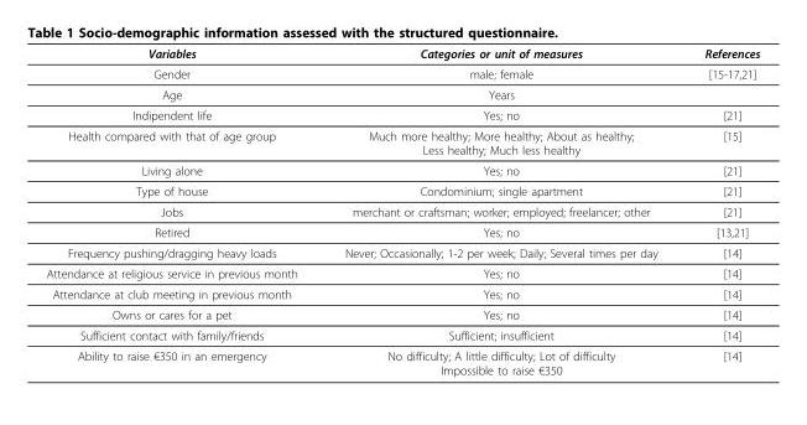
<table><thead><tr><td>Variables</td><td>Categories or unit of measures</td><td>References</td></tr></thead><tbody><tr><td>Gender</td><td>male; female</td><td>[15-17,21]</td></tr><tr><td>Age</td><td>Years</td><td></td></tr><tr><td>Indipendent life</td><td>Yes; no</td><td>[21]</td></tr><tr><td>Health compared with that of age group</td><td>Much more healthy; More healthy; About as healthy; Less healthy; Much less healthy</td><td>[15]</td></tr><tr><td>Living alone</td><td>Yes; no</td><td>[21]</td></tr><tr><td>Type of house</td><td>Condominium; single apartment</td><td>[21]</td></tr><tr><td>Jobs</td><td>merchant or craftsman; worker; employed; freelancer; other</td><td>[21]</td></tr><tr><td>Retired</td><td>Yes; no</td><td>[13,21]</td></tr><tr><td>Frequency pushing/dragging heavy loads</td><td>Never; Occasionally; 1-2 per week; Daily; Several times per day</td><td>[14]</td></tr><tr><td>Attendance at religious service in previous month</td><td>Yes; no</td><td>[14]</td></tr><tr><td>Attendance at club meeting in previous month</td><td>Yes; no</td><td>[14]</td></tr><tr><td>Owns or cares for a pet</td><td>Yes; no</td><td>[14]</td></tr><tr><td>Sufficient contact with family/friends</td><td>Sufficient; insufficient</td><td>[14]</td></tr><tr><td>Ability to raise €350 in an emergency</td><td>No difficulty; A little difficulty; Lot of difficulty Impossible to raise €350</td><td>[14]</td></tr></tbody></table>